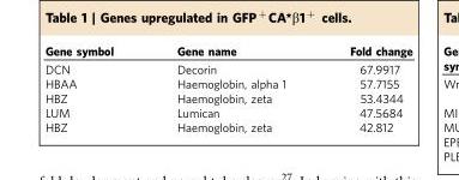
<table><thead><tr><td>Gene symbol</td><td>Gene name</td><td>Fold change</td></tr></thead><tbody><tr><td>DCN</td><td>Decorin</td><td>67.9917</td></tr><tr><td>HBAA</td><td>Haemoglobin, alpha 1</td><td>57.7155</td></tr><tr><td>HBZ</td><td>Haemoglobin, zeta</td><td>53.4344</td></tr><tr><td>LUM</td><td>Lumican</td><td>47.5684</td></tr><tr><td>HBZ</td><td>Haemoglobin, zeta</td><td>42.812</td></tr></tbody></table>